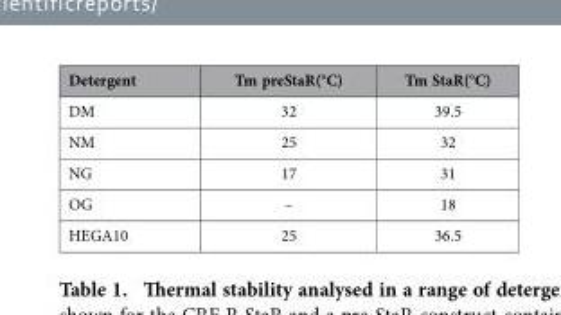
<table><thead><tr><td>Detergent</td><td>Tm preStaR(°C)</td><td>Tm StaR(°C)</td></tr></thead><tbody><tr><td>DM</td><td>32</td><td>39.5</td></tr><tr><td>NM</td><td>25</td><td>32</td></tr><tr><td>NG</td><td>17</td><td>31</td></tr><tr><td>OG</td><td>–</td><td>18</td></tr><tr><td>HEGA10</td><td>25</td><td>36.5</td></tr></tbody></table>